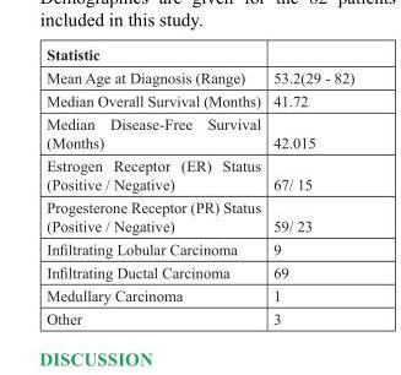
<table><thead><tr><td>Statistic</td><td></td></tr></thead><tbody><tr><td>Mean Age at Diagnosis (Range)</td><td>53.2(29 - 82)</td></tr><tr><td>Median Overall Survival (Months)</td><td>41.72</td></tr><tr><td>Median Disease-Free Survival (Months)</td><td>42.015</td></tr><tr><td>Estrogen Receptor (ER) Status (Positive / Negative)</td><td>67/ 15</td></tr><tr><td>Progesterone Receptor (PR) Status (Positive / Negative)</td><td>59/ 23</td></tr><tr><td>Infiltrating Lobular Carcinoma</td><td>9</td></tr><tr><td>Infiltrating Ductal Carcinoma</td><td>69</td></tr><tr><td>Medullary Carcinoma</td><td>1</td></tr><tr><td>Other</td><td>3</td></tr></tbody></table>